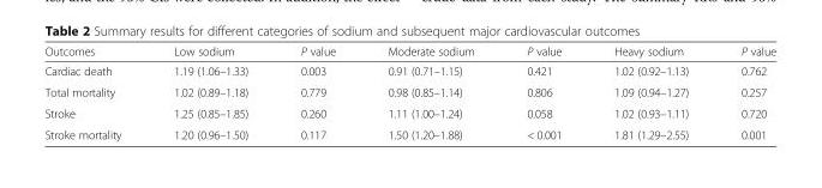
<table><thead><tr><td>Outcomes</td><td>Low sodium</td><td>P value</td><td>Moderate sodium</td><td>P value</td><td>Heavy sodium</td><td>P value</td></tr></thead><tbody><tr><td>Cardiac death</td><td>1.19 (1.06–1.33)</td><td>0.003</td><td>0.91 (0.71–1.15)</td><td>0.421</td><td>1.02 (0.92–1.13)</td><td>0.762</td></tr><tr><td>Total mortality</td><td>1.02 (0.89–1.18)</td><td>0.779</td><td>0.98 (0.85–1.14)</td><td>0.806</td><td>1.09 (0.94–1.27)</td><td>0.257</td></tr><tr><td>Stroke</td><td>1.25 (0.85–1.85)</td><td>0.260</td><td>1.11 (1.00–1.24)</td><td>0.058</td><td>1.02 (0.93–1.11)</td><td>0.720</td></tr><tr><td>Stroke mortality</td><td>1.20 (0.96–1.50)</td><td>0.117</td><td>1.50 (1.20–1.88)</td><td>&lt; 0.001</td><td>1.81 (1.29–2.55)</td><td>0.001</td></tr></tbody></table>